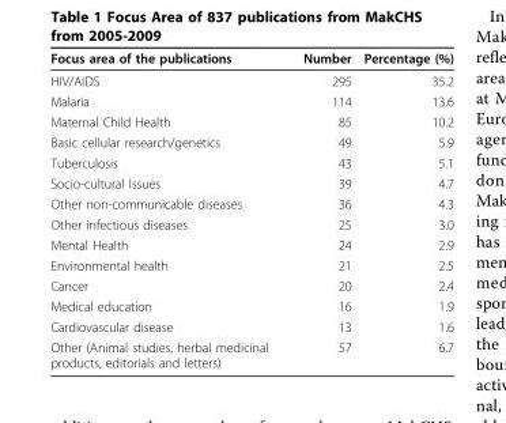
<table><thead><tr><td>Focus area of the publications</td><td>Number</td><td>Percentage (%)</td></tr></thead><tbody><tr><td>HIV/AIDS</td><td>295</td><td>35.2</td></tr><tr><td>Malaria</td><td>114</td><td>13.6</td></tr><tr><td>Maternal Child Health</td><td>85</td><td>10.2</td></tr><tr><td>Basic cellular research/genetics</td><td>49</td><td>5.9</td></tr><tr><td>Tuberculosis</td><td>43</td><td>5.1</td></tr><tr><td>Socio-cultural Issues</td><td>39</td><td>4.7</td></tr><tr><td>Other non-communicable diseases</td><td>36</td><td>4.3</td></tr><tr><td>Other infectious diseases</td><td>25</td><td>3.0</td></tr><tr><td>Mental Health</td><td>24</td><td>2.9</td></tr><tr><td>Environmental health</td><td>21</td><td>2.5</td></tr><tr><td>Cancer</td><td>20</td><td>2.4</td></tr><tr><td>Medical education</td><td>16</td><td>1.9</td></tr><tr><td>Cardiovascular disease</td><td>13</td><td>1.6</td></tr><tr><td>Other (Animal studies, herbal medicinal products, editorials and letters)</td><td>57</td><td>6.7</td></tr></tbody></table>